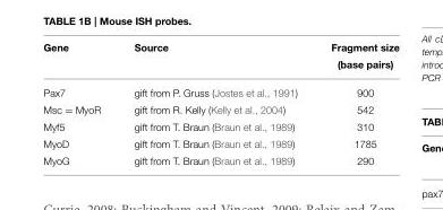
<table><thead><tr><td>Gene</td><td>Source</td><td>Fragment size (base pairs)</td></tr></thead><tbody><tr><td>Pax7</td><td>gift from P. Gruss (Jostes et al., 1991)</td><td>900</td></tr><tr><td>Msc = MyoR</td><td>gift from R. Kelly (Kelly et al., 2004)</td><td>542</td></tr><tr><td>Myf5</td><td>gift from T. Braun (Braun et al., 1989)</td><td>310</td></tr><tr><td>MyoD</td><td>gift from T. Braun (Braun et al., 1989)</td><td>1785</td></tr><tr><td>MyoG</td><td>gift from T. Braun (Braun et al., 1989)</td><td>290</td></tr></tbody></table>